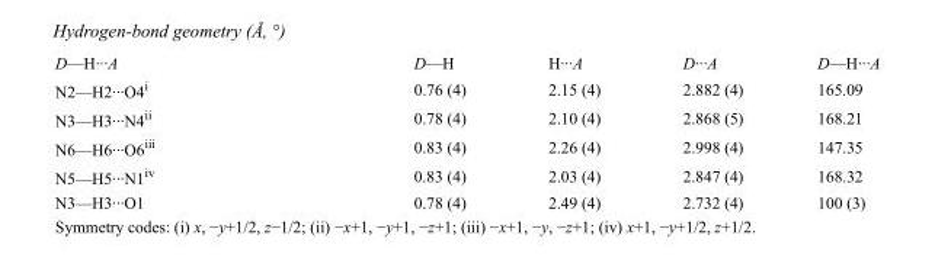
<table><tbody><tr><td>D—H···A</td><td>D—H</td><td>H···A</td><td>D···A</td><td>D—H···A</td></tr><tr><td>N2—H2···O4<sup>i</sup></td><td>0.76 (4)</td><td>2.15 (4)</td><td>2.882 (4)</td><td>165.09</td></tr><tr><td>N3—H3···N4<sup>ii</sup></td><td>0.78 (4)</td><td>2.10 (4)</td><td>2.868 (5)</td><td>168.21</td></tr><tr><td>N6—H6···O6<sup>iii</sup></td><td>0.83 (4)</td><td>2.26 (4)</td><td>2.998 (4)</td><td>147.35</td></tr><tr><td>N5—H5···N1<sup>iv</sup></td><td>0.83 (4)</td><td>2.03 (4)</td><td>2.847 (4)</td><td>168.32</td></tr><tr><td>N3—H3···O1</td><td>0.78 (4)</td><td>2.49 (4)</td><td>2.732 (4)</td><td>100 (3)</td></tr></tbody></table>